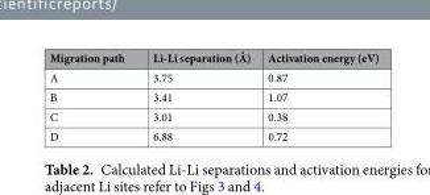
<table><thead><tr><td>Migration path</td><td>Li-Li separation (Å)</td><td>Activation energy (eV)</td></tr></thead><tbody><tr><td>A</td><td>3.75</td><td>0.87</td></tr><tr><td>B</td><td>3.41</td><td>1.07</td></tr><tr><td>C</td><td>3.01</td><td>0.38</td></tr><tr><td>D</td><td>6.88</td><td>0.72</td></tr></tbody></table>